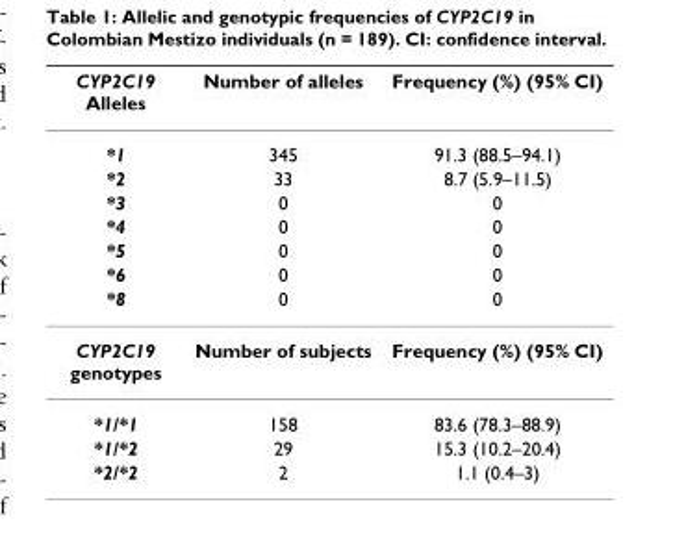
<table><thead><tr><td>CYP2C19 Alleles</td><td>Number of alleles</td><td>Frequency (%) (95% CI)</td></tr></thead><tbody><tr><td>*1</td><td>345</td><td>91.3 (88.5–94.1)</td></tr><tr><td>*2</td><td>33</td><td>8.7 (5.9–11.5)</td></tr><tr><td>*3</td><td>0</td><td>0</td></tr><tr><td>*4</td><td>0</td><td>0</td></tr><tr><td>*5</td><td>0</td><td>0</td></tr><tr><td>*6</td><td>0</td><td>0</td></tr><tr><td>*8</td><td>0</td><td>0</td></tr><tr><td>CYP2C19 genotypes</td><td>Number of subjects</td><td>Frequency (%) (95% CI)</td></tr><tr><td>*1/*1</td><td>158</td><td>83.6 (78.3–88.9)</td></tr><tr><td>*1/*2</td><td>29</td><td>15.3 (10.2–20.4)</td></tr><tr><td>*2/*2</td><td>2</td><td>1.1 (0.4–3)</td></tr></tbody></table>